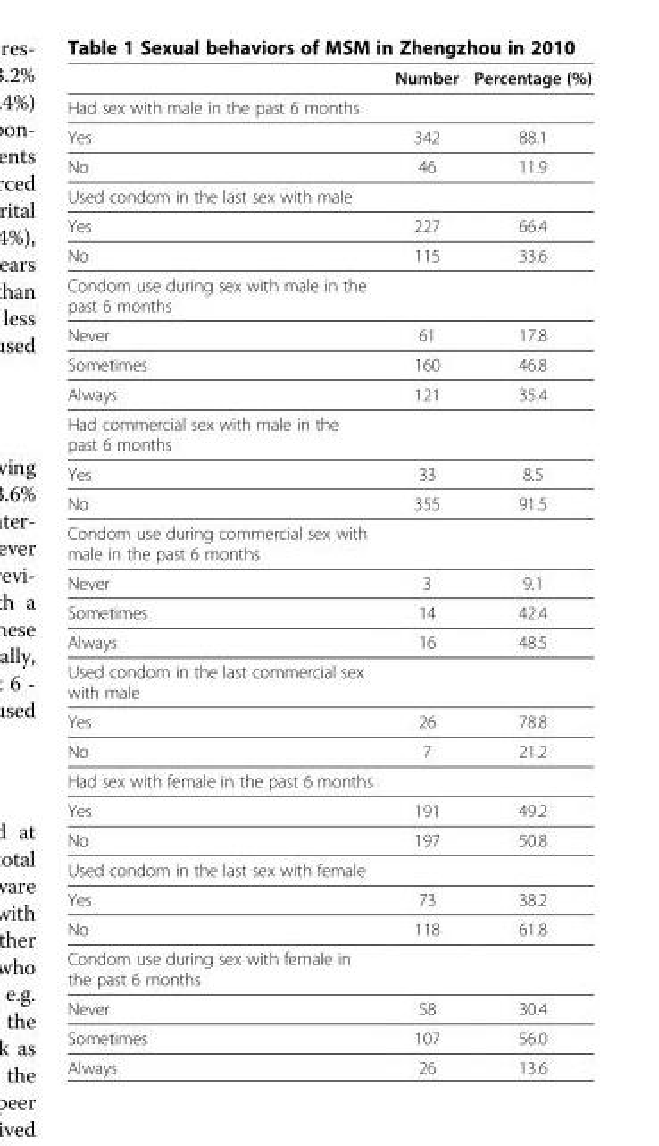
<table><thead><tr><td></td><td>Number</td><td>Percentage (%)</td></tr></thead><tbody><tr><td colspan="3">Had sex with male in the past 6 months</td></tr><tr><td>Yes</td><td>342</td><td>88.1</td></tr><tr><td>No</td><td>46</td><td>11.9</td></tr><tr><td colspan="3">Used condom in the last sex with male</td></tr><tr><td>Yes</td><td>227</td><td>66.4</td></tr><tr><td>No</td><td>115</td><td>33.6</td></tr><tr><td colspan="3">Condom use during sex with male in the past 6 months</td></tr><tr><td>Never</td><td>61</td><td>17.8</td></tr><tr><td>Sometimes</td><td>160</td><td>46.8</td></tr><tr><td>Always</td><td>121</td><td>35.4</td></tr><tr><td colspan="3">Had commercial sex with male in the past 6 months</td></tr><tr><td>Yes</td><td>33</td><td>8.5</td></tr><tr><td>No</td><td>355</td><td>91.5</td></tr><tr><td colspan="3">Condom use during commercial sex with male in the past 6 months</td></tr><tr><td>Never</td><td>3</td><td>9.1</td></tr><tr><td>Sometimes</td><td>14</td><td>42.4</td></tr><tr><td>Always</td><td>16</td><td>48.5</td></tr><tr><td colspan="3">Used condom in the last commercial sex with male</td></tr><tr><td>Yes</td><td>26</td><td>78.8</td></tr><tr><td>No</td><td>7</td><td>21.2</td></tr><tr><td colspan="3">Had sex with female in the past 6 months</td></tr><tr><td>Yes</td><td>191</td><td>49.2</td></tr><tr><td>No</td><td>197</td><td>50.8</td></tr><tr><td colspan="3">Used condom in the last sex with female</td></tr><tr><td>Yes</td><td>73</td><td>38.2</td></tr><tr><td>No</td><td>118</td><td>61.8</td></tr><tr><td colspan="3">Condom use during sex with female in the past 6 months</td></tr><tr><td>Never</td><td>58</td><td>30.4</td></tr><tr><td>Sometimes</td><td>107</td><td>56.0</td></tr><tr><td>Always</td><td>26</td><td>13.6</td></tr></tbody></table>